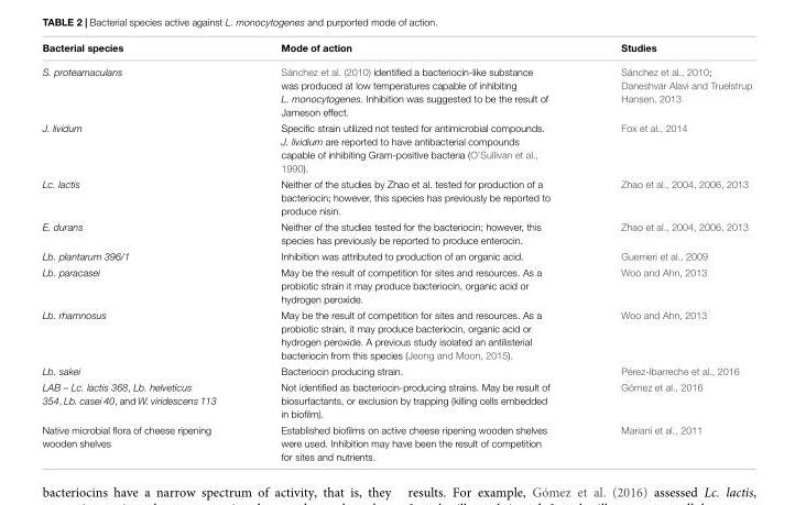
<table><thead><tr><td>Bacterial species</td><td>Mode of action</td><td>Studies</td></tr></thead><tbody><tr><td>S. proteamaculans</td><td>Sánchez et al. (2010) identified a bacteriocin-like substance was produced at low temperatures capable of inhibiting L. monocytogenes. Inhibition was suggested to be the result of Jameson effect.</td><td>Sánchez et al., 2010; Daneshvar Alavi and Truelstrup Hansen, 2013</td></tr><tr><td>J. lividum</td><td>Specific strain utilized not tested for antimicrobial compounds. J. lividium are reported to have antibacterial compounds capable of inhibiting Gram-positive bacteria (O’Sullivan et al., 1990).</td><td>Fox et al., 2014</td></tr><tr><td>Lc. lactis</td><td>Neither of the studies by Zhao et al. tested for production of a bacteriocin; however, this species has previously be reported to produce nisin.</td><td>Zhao et al., 2004, 2006, 2013</td></tr><tr><td>E. durans</td><td>Neither of the studies tested for the bacteriocin; however, this species has previously be reported to produce enterocin.</td><td>Zhao et al., 2004, 2006, 2013</td></tr><tr><td>Lb. plantarum 396/1</td><td>Inhibition was attributed to production of an organic acid.</td><td>Guerrieri et al., 2009</td></tr><tr><td>Lb. paracasei</td><td>May be the result of competition for sites and resources. As a probiotic strain it may produce bacteriocin, organic acid or hydrogen peroxide.</td><td>Woo and Ahn, 2013</td></tr><tr><td>Lb. rhamnosus</td><td>May be the result of competition for sites and resources. As a probiotic strain, it may produce bacteriocin, organic acid or hydrogen peroxide. A previous study isolated an antilisterial bacteriocin from this species (Jeong and Moon, 2015).</td><td>Woo and Ahn, 2013</td></tr><tr><td>Lb. sakei</td><td>Bacteriocin producing strain.</td><td>Pérez-Ibarreche et al., 2016</td></tr><tr><td>LAB – Lc. lactis 368, Lb. helveticus 354, Lb. casei 40, and W. viridescens 113</td><td>Not identified as bacteriocin-producing strains. May be result of biosurfactants, or exclusion by trapping (killing cells embedded in biofilm).</td><td>Gómez et al., 2016</td></tr><tr><td>Native microbial flora of cheese ripening wooden shelves</td><td>Established biofilms on active cheese ripening wooden shelves were used. Inhibition may have been the result of competition for sites and nutrients.</td><td>Mariani et al., 2011</td></tr></tbody></table>